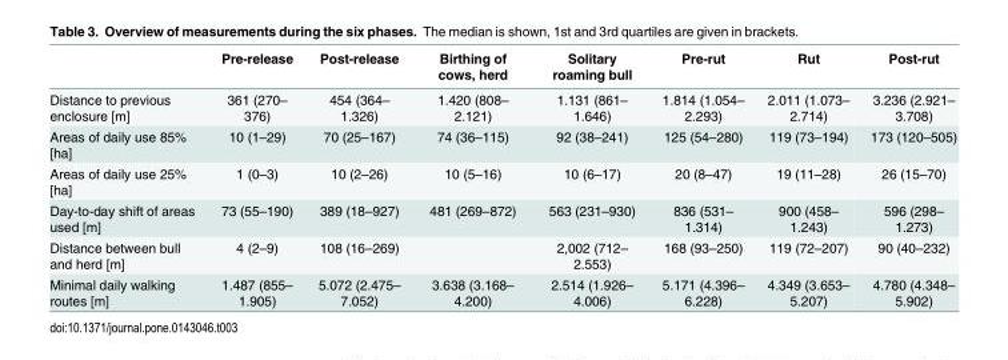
<table><thead><tr><td></td><td>Pre-release</td><td>Post-release</td><td>Birthing of cows, herd</td><td>Solitary roaming bull</td><td>Pre-rut</td><td>Rut</td><td>Post-rut</td></tr></thead><tbody><tr><td>Distance to previous enclosure [m]</td><td>361 (270– 376)</td><td>454 (364– 1.326)</td><td>1.420 (808– 2.121)</td><td>1.131 (861– 1.646)</td><td>1.814 (1.054– 2.293)</td><td>2.011 (1.073– 2.714)</td><td>3.236 (2.921– 3.708)</td></tr><tr><td>Areas of daily use 85% [ha]</td><td>10 (1–29)</td><td>70 (25–167)</td><td>74 (36–115)</td><td>92 (38–241)</td><td>125 (54–280)</td><td>119 (73–194)</td><td>173 (120–505)</td></tr><tr><td>Areas of daily use 25% [ha]</td><td>1 (0–3)</td><td>10 (2–26)</td><td>10 (5–16)</td><td>10 (6–17)</td><td>20 (8–47)</td><td>19 (11–28)</td><td>26 (15–70)</td></tr><tr><td>Day-to-day shift of areas used [m]</td><td>73 (55–190)</td><td>389 (18–927)</td><td>481 (269–872)</td><td>563 (231–930)</td><td>836 (531– 1.314)</td><td>900 (458– 1.243)</td><td>596 (298– 1.273)</td></tr><tr><td>Distance between bull and herd [m]</td><td>4 (2–9)</td><td>108 (16–269)</td><td></td><td>2,002 (712– 2.553)</td><td>168 (93–250)</td><td>119 (72–207)</td><td>90 (40–232)</td></tr><tr><td>Minimal daily walking routes [m]</td><td>1.487 (855– 1.905)</td><td>5.072 (2.475– 7.052)</td><td>3.638 (3.168– 4.200)</td><td>2.514 (1.926– 4.006)</td><td>5.171 (4.396– 6.228)</td><td>4.349 (3.653– 5.207)</td><td>4.780 (4.348– 5.902)</td></tr></tbody></table>